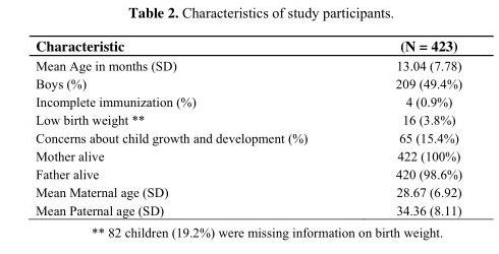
<table><thead><tr><td>Characteristic</td><td>(N = 423)</td></tr></thead><tbody><tr><td>Mean Age in months (SD)</td><td>13.04 (7.78)</td></tr><tr><td>Boys (%)</td><td>209 (49.4%)</td></tr><tr><td>Incomplete immunization (%)</td><td>4 (0.9%)</td></tr><tr><td>Low birth weight **</td><td>16 (3.8%)</td></tr><tr><td>Concerns about child growth and development (%)</td><td>65 (15.4%)</td></tr><tr><td>Mother alive</td><td>422 (100%)</td></tr><tr><td>Father alive</td><td>420 (98.6%)</td></tr><tr><td>Mean Maternal age (SD)</td><td>28.67 (6.92)</td></tr><tr><td>Mean Paternal age (SD)</td><td>34.36 (8.11)</td></tr></tbody></table>